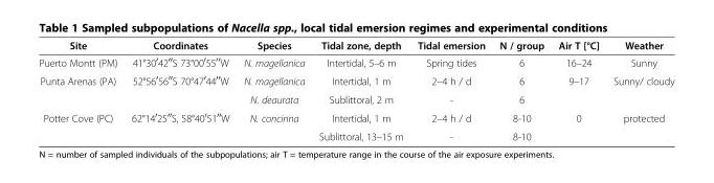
<table><thead><tr><td>Site</td><td>Coordinates</td><td>Species</td><td>Tidal zone, depth</td><td>Tidal emersion</td><td>N / group</td><td>Air T [°C]</td><td>Weather</td></tr></thead><tbody><tr><td>Puerto Montt (PM)</td><td>41°30<sup>′</sup>42<sup>′′</sup>S 73°00<sup>′</sup>55<sup>′′</sup>W</td><td>N. magellanica</td><td>Intertidal, 5–6 m</td><td>Spring tides</td><td>6</td><td>16–24</td><td>Sunny</td></tr><tr><td rowspan="2">Punta Arenas (PA)</td><td rowspan="2">52°56<sup>′</sup>56<sup>′′</sup>S 70°47<sup>′</sup>44<sup>′′</sup>W</td><td>N. magellanica</td><td>Intertidal, 1 m</td><td>2–4 h / d</td><td>6</td><td rowspan="2">9–17</td><td rowspan="2">Sunny/ cloudy</td></tr><tr><td>N. deaurata</td><td>Sublittoral, 2 m</td><td>-</td><td>6</td></tr><tr><td>Potter Cove (PC)</td><td>62°14<sup>′</sup>25<sup>′′</sup>S, 58°40<sup>′</sup>51<sup>′′</sup>W</td><td>N. concinna</td><td>Intertidal, 1 m</td><td>2–4 h / d</td><td>8-10</td><td>0</td><td>protected</td></tr><tr><td colspan="3"></td><td>Sublittoral, 13–15 m</td><td>-</td><td>8-10</td><td colspan="2"></td></tr></tbody></table>